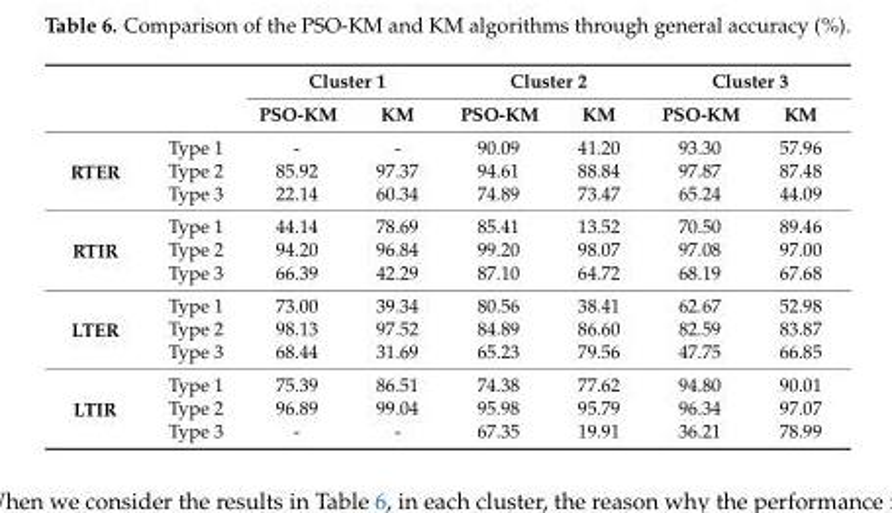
<table><thead><tr><td rowspan="2"></td><td rowspan="2"></td><td colspan="2">Cluster 1</td><td colspan="2">Cluster 2</td><td colspan="2">Cluster 3</td></tr><tr><td>PSO-KM</td><td>KM</td><td>PSO-KM</td><td>KM</td><td>PSO-KM</td><td>KM</td></tr></thead><tbody><tr><td rowspan="3">RTER</td><td>Type 1</td><td>-</td><td>-</td><td>90.09</td><td>41.20</td><td>93.30</td><td>57.96</td></tr><tr><td>Type 2</td><td>85.92</td><td>97.37</td><td>94.61</td><td>88.84</td><td>97.87</td><td>87.48</td></tr><tr><td>Type 3</td><td>22.14</td><td>60.34</td><td>74.89</td><td>73.47</td><td>65.24</td><td>44.09</td></tr><tr><td rowspan="3">RTIR</td><td>Type 1</td><td>44.14</td><td>78.69</td><td>85.41</td><td>13.52</td><td>70.50</td><td>89.46</td></tr><tr><td>Type 2</td><td>94.20</td><td>96.84</td><td>99.20</td><td>98.07</td><td>97.08</td><td>97.00</td></tr><tr><td>Type 3</td><td>66.39</td><td>42.29</td><td>87.10</td><td>64.72</td><td>68.19</td><td>67.68</td></tr><tr><td rowspan="3">LTER</td><td>Type 1</td><td>73.00</td><td>39.34</td><td>80.56</td><td>38.41</td><td>62.67</td><td>52.98</td></tr><tr><td>Type 2</td><td>98.13</td><td>97.52</td><td>84.89</td><td>86.60</td><td>82.59</td><td>83.87</td></tr><tr><td>Type 3</td><td>68.44</td><td>31.69</td><td>65.23</td><td>79.56</td><td>47.75</td><td>66.85</td></tr><tr><td rowspan="3">LTIR</td><td>Type 1</td><td>75.39</td><td>86.51</td><td>74.38</td><td>77.62</td><td>94.80</td><td>90.01</td></tr><tr><td>Type 2</td><td>96.89</td><td>99.04</td><td>95.98</td><td>95.79</td><td>96.34</td><td>97.07</td></tr><tr><td>Type 3</td><td>-</td><td>-</td><td>67.35</td><td>19.91</td><td>36.21</td><td>78.99</td></tr></tbody></table>